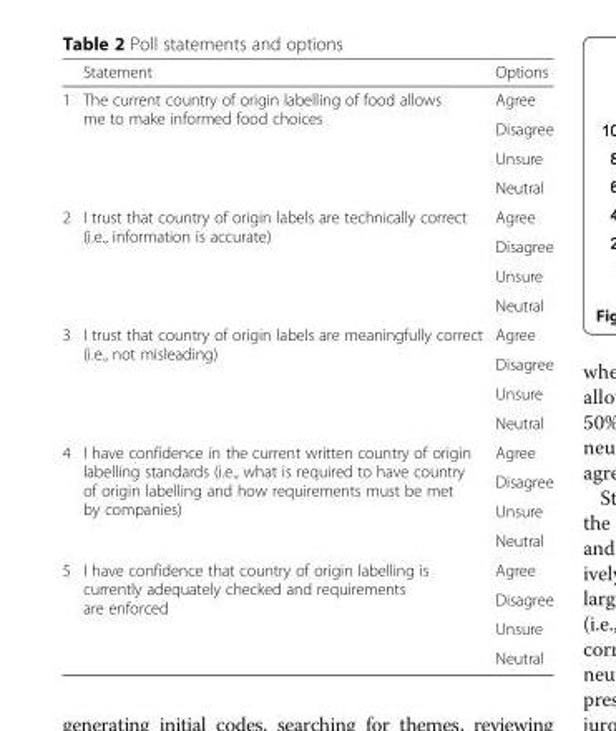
<table><thead><tr><td></td><td>Statement</td><td>Options</td></tr></thead><tbody><tr><td rowspan="4">1</td><td rowspan="4">The current country of origin labelling of food allows me to make informed food choices</td><td>Agree</td></tr><tr><td>Disagree</td></tr><tr><td>Unsure</td></tr><tr><td>Neutral</td></tr><tr><td rowspan="4">2</td><td rowspan="4">I trust that country of origin labels are technically correct (i.e., information is accurate)</td><td>Agree</td></tr><tr><td>Disagree</td></tr><tr><td>Unsure</td></tr><tr><td>Neutral</td></tr><tr><td rowspan="4">3</td><td rowspan="4">I trust that country of origin labels are meaningfully correct (i.e., not misleading)</td><td>Agree</td></tr><tr><td>Disagree</td></tr><tr><td>Unsure</td></tr><tr><td>Neutral</td></tr><tr><td rowspan="4">4</td><td rowspan="4">I have confidence in the current written country of origin labelling standards (i.e., what is required to have country of origin labelling and how requirements must be met by companies)</td><td>Agree</td></tr><tr><td>Disagree</td></tr><tr><td>Unsure</td></tr><tr><td>Neutral</td></tr><tr><td rowspan="4">5</td><td rowspan="4">I have confidence that country of origin labelling is currently adequately checked and requirements are enforced</td><td>Agree</td></tr><tr><td>Disagree</td></tr><tr><td>Unsure</td></tr><tr><td>Neutral</td></tr></tbody></table>